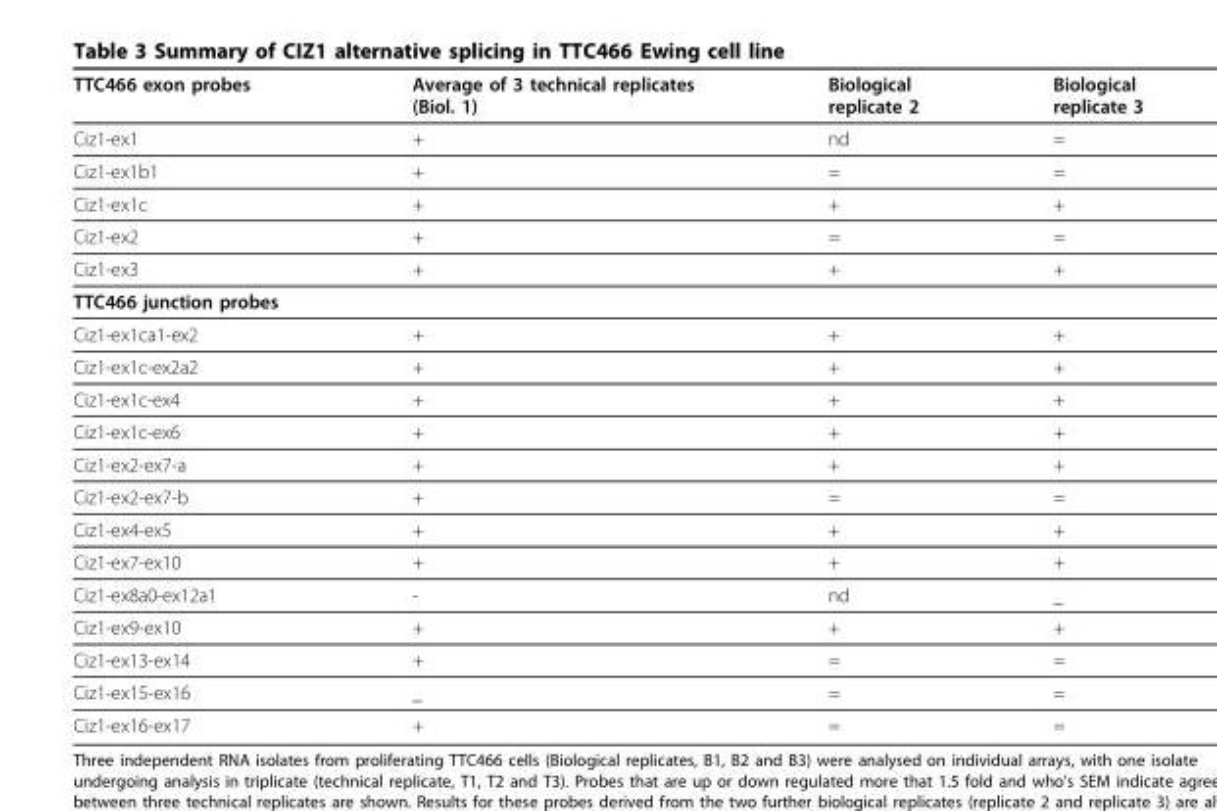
<table><thead><tr><td>TTC466 exon probes</td><td>Average of 3 technical replicates (Biol. 1)</td><td>Biological replicate 2</td><td>Biological replicate 3</td></tr></thead><tbody><tr><td>Ciz1-ex1</td><td>+</td><td>nd</td><td>=</td></tr><tr><td>Ciz1-ex1b1</td><td>+</td><td>=</td><td>=</td></tr><tr><td>Ciz1-ex1c</td><td>+</td><td>+</td><td>+</td></tr><tr><td>Ciz1-ex2</td><td>+</td><td>=</td><td>=</td></tr><tr><td>Ciz1-ex3</td><td>+</td><td>+</td><td>+</td></tr><tr><td colspan="4">TTC466 junction probes</td></tr><tr><td>Ciz1-ex1ca1-ex2</td><td>+</td><td>+</td><td>+</td></tr><tr><td>Ciz1-ex1c-ex2a2</td><td>+</td><td>+</td><td>+</td></tr><tr><td>Ciz1-ex1c-ex4</td><td>+</td><td>+</td><td>+</td></tr><tr><td>Ciz1-ex1c-ex6</td><td>+</td><td>+</td><td>+</td></tr><tr><td>Ciz1-ex2-ex7-a</td><td>+</td><td>+</td><td>+</td></tr><tr><td>Ciz1-ex2-ex7-b</td><td>+</td><td>=</td><td>=</td></tr><tr><td>Ciz1-ex4-ex5</td><td>+</td><td>+</td><td>+</td></tr><tr><td>Ciz1-ex7-ex10</td><td>+</td><td>+</td><td>+</td></tr><tr><td>Ciz1-ex8a0-ex12a1</td><td>-</td><td>nd</td><td>_</td></tr><tr><td>Ciz1-ex9-ex10</td><td>+</td><td>+</td><td>+</td></tr><tr><td>Ciz1-ex13-ex14</td><td>+</td><td>=</td><td>=</td></tr><tr><td>Ciz1-ex15-ex16</td><td>_</td><td>=</td><td>=</td></tr><tr><td>Ciz1-ex16-ex17</td><td>+</td><td>=</td><td>=</td></tr></tbody></table>